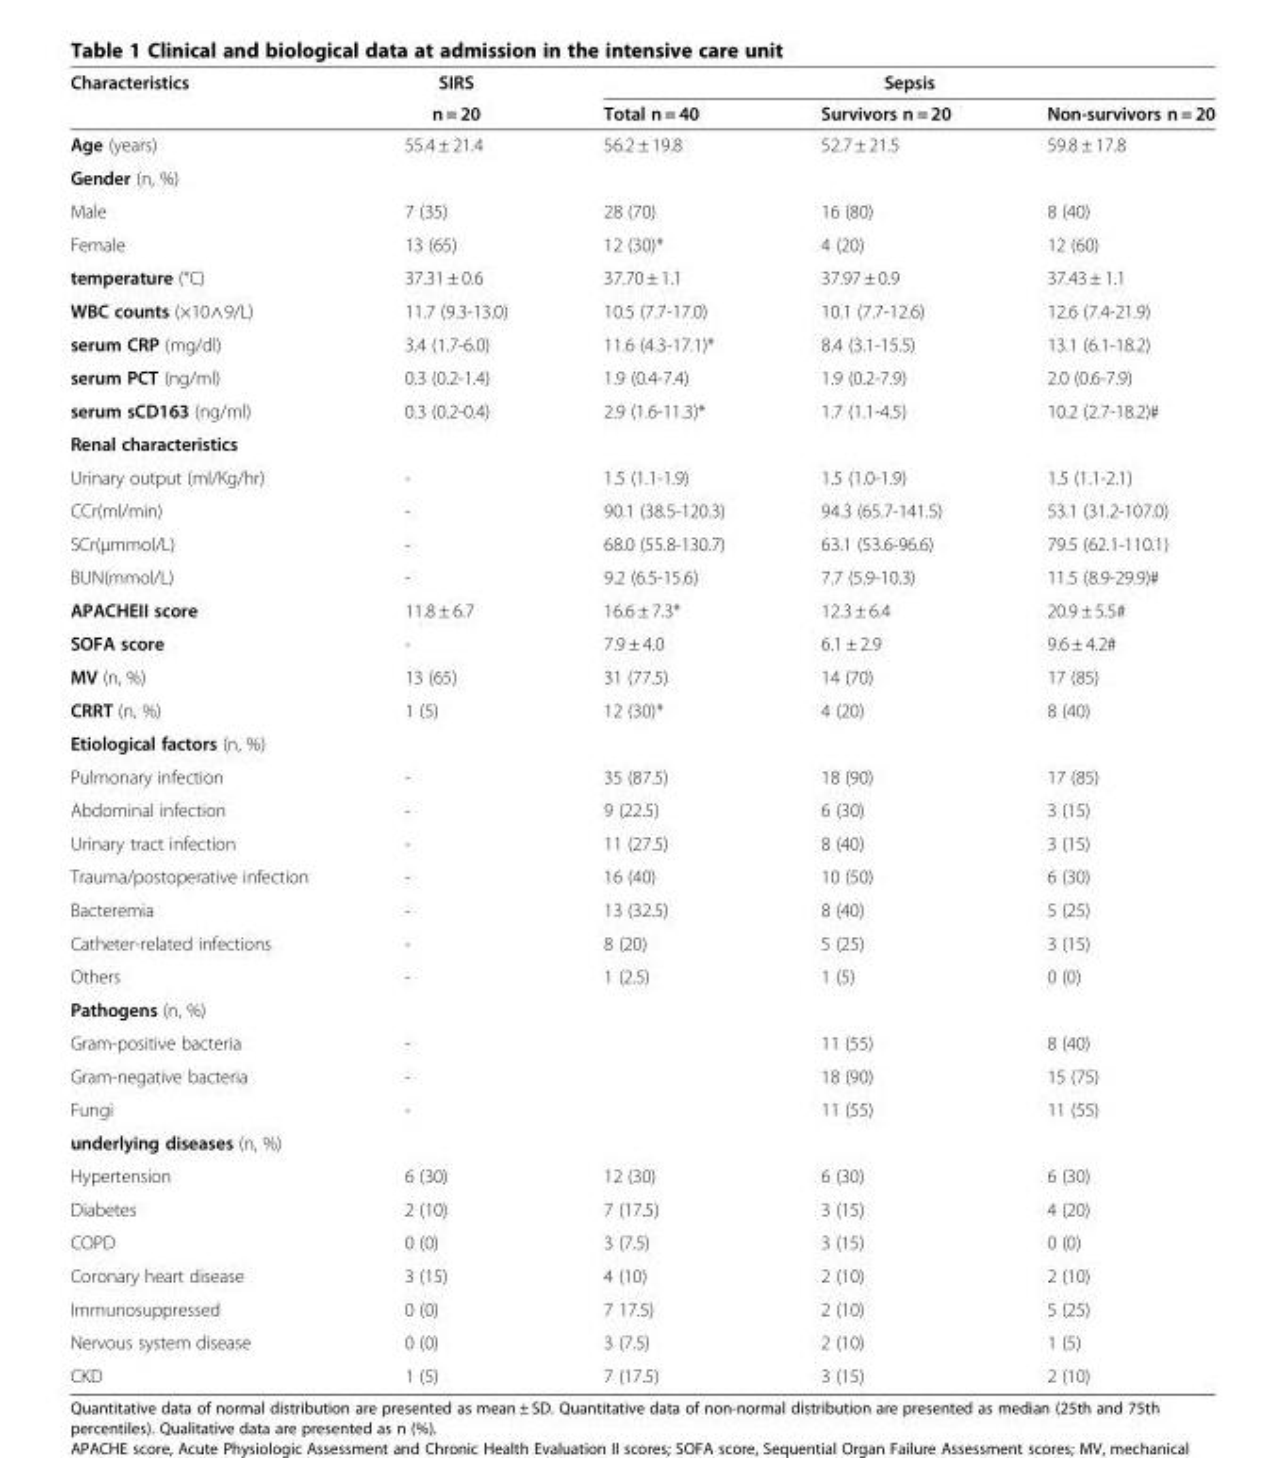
<table><thead><tr><td rowspan="2">Characteristics</td><td rowspan="2">SIRS n = 20</td><td colspan="3">Sepsis</td></tr><tr><td>Total n = 40</td><td>Survivors n = 20</td><td>Non-survivors n = 20</td></tr></thead><tbody><tr><td>Age (years)</td><td>55.4 ± 21.4</td><td>56.2 ± 19.8</td><td>52.7 ± 21.5</td><td>59.8 ± 17.8</td></tr><tr><td colspan="5">Gender (n, %)</td></tr><tr><td>Male</td><td>7 (35)</td><td>28 (70)</td><td>16 (80)</td><td>8 (40)</td></tr><tr><td>Female</td><td>13 (65)</td><td>12 (30)*</td><td>4 (20)</td><td>12 (60)</td></tr><tr><td>temperature (°C)</td><td>37.31 ± 0.6</td><td>37.70 ± 1.1</td><td>37.97 ± 0.9</td><td>37.43 ± 1.1</td></tr><tr><td>WBC counts (×10∧9/L)</td><td>11.7 (9.3-13.0)</td><td>10.5 (7.7-17.0)</td><td>10.1 (7.7-12.6)</td><td>12.6 (7.4-21.9)</td></tr><tr><td>serum CRP (mg/dl)</td><td>3.4 (1.7-6.0)</td><td>11.6 (4.3-17.1)*</td><td>8.4 (3.1-15.5)</td><td>13.1 (6.1-18.2)</td></tr><tr><td>serum PCT (ng/ml)</td><td>0.3 (0.2-1.4)</td><td>1.9 (0.4-7.4)</td><td>1.9 (0.2-7.9)</td><td>2.0 (0.6-7.9)</td></tr><tr><td>serum sCD163 (ng/ml)</td><td>0.3 (0.2-0.4)</td><td>2.9 (1.6-11.3)*</td><td>1.7 (1.1-4.5)</td><td>10.2 (2.7-18.2)#</td></tr><tr><td colspan="5">Renal characteristics</td></tr><tr><td>Urinary output (ml/Kg/hr)</td><td>-</td><td>1.5 (1.1-1.9)</td><td>1.5 (1.0-1.9)</td><td>1.5 (1.1-2.1)</td></tr><tr><td>CCr(ml/min)</td><td>-</td><td>90.1 (38.5-120.3)</td><td>94.3 (65.7-141.5)</td><td>53.1 (31.2-107.0)</td></tr><tr><td>SCr(μmmol/L)</td><td>-</td><td>68.0 (55.8-130.7)</td><td>63.1 (53.6-96.6)</td><td>79.5 (62.1-110.1)</td></tr><tr><td>BUN(mmol/L)</td><td>-</td><td>9.2 (6.5-15.6)</td><td>7.7 (5.9-10.3)</td><td>11.5 (8.9-29.9)#</td></tr><tr><td>APACHEII score</td><td>11.8 ± 6.7</td><td>16.6 ± 7.3*</td><td>12.3 ± 6.4</td><td>20.9 ± 5.5#</td></tr><tr><td>SOFA score</td><td>-</td><td>7.9 ± 4.0</td><td>6.1 ± 2.9</td><td>9.6 ± 4.2#</td></tr><tr><td>MV (n, %)</td><td>13 (65)</td><td>31 (77.5)</td><td>14 (70)</td><td>17 (85)</td></tr><tr><td>CRRT (n, %)</td><td>1 (5)</td><td>12 (30)*</td><td>4 (20)</td><td>8 (40)</td></tr><tr><td colspan="5">Etiological factors (n, %)</td></tr><tr><td>Pulmonary infection</td><td>-</td><td>35 (87.5)</td><td>18 (90)</td><td>17 (85)</td></tr><tr><td>Abdominal infection</td><td>-</td><td>9 (22.5)</td><td>6 (30)</td><td>3 (15)</td></tr><tr><td>Urinary tract infection</td><td>-</td><td>11 (27.5)</td><td>8 (40)</td><td>3 (15)</td></tr><tr><td>Trauma/postoperative infection</td><td>-</td><td>16 (40)</td><td>10 (50)</td><td>6 (30)</td></tr><tr><td>Bacteremia</td><td>-</td><td>13 (32.5)</td><td>8 (40)</td><td>5 (25)</td></tr><tr><td>Catheter-related infections</td><td>-</td><td>8 (20)</td><td>5 (25)</td><td>3 (15)</td></tr><tr><td>Others</td><td>-</td><td>1 (2.5)</td><td>1 (5)</td><td>0 (0)</td></tr><tr><td colspan="5">Pathogens (n, %)</td></tr><tr><td>Gram-positive bacteria</td><td>-</td><td></td><td>11 (55)</td><td>8 (40)</td></tr><tr><td>Gram-negative bacteria</td><td>-</td><td></td><td>18 (90)</td><td>15 (75)</td></tr><tr><td>Fungi</td><td>-</td><td></td><td>11 (55)</td><td>11 (55)</td></tr><tr><td colspan="5">underlying diseases (n, %)</td></tr><tr><td>Hypertension</td><td>6 (30)</td><td>12 (30)</td><td>6 (30)</td><td>6 (30)</td></tr><tr><td>Diabetes</td><td>2 (10)</td><td>7 (17.5)</td><td>3 (15)</td><td>4 (20)</td></tr><tr><td>COPD</td><td>0 (0)</td><td>3 (7.5)</td><td>3 (15)</td><td>0 (0)</td></tr><tr><td>Coronary heart disease</td><td>3 (15)</td><td>4 (10)</td><td>2 (10)</td><td>2 (10)</td></tr><tr><td>Immunosuppressed</td><td>0 (0)</td><td>7 17.5)</td><td>2 (10)</td><td>5 (25)</td></tr><tr><td>Nervous system disease</td><td>0 (0)</td><td>3 (7.5)</td><td>2 (10)</td><td>1 (5)</td></tr><tr><td>CKD</td><td>1 (5)</td><td>7 (17.5)</td><td>3 (15)</td><td>2 (10)</td></tr></tbody></table>